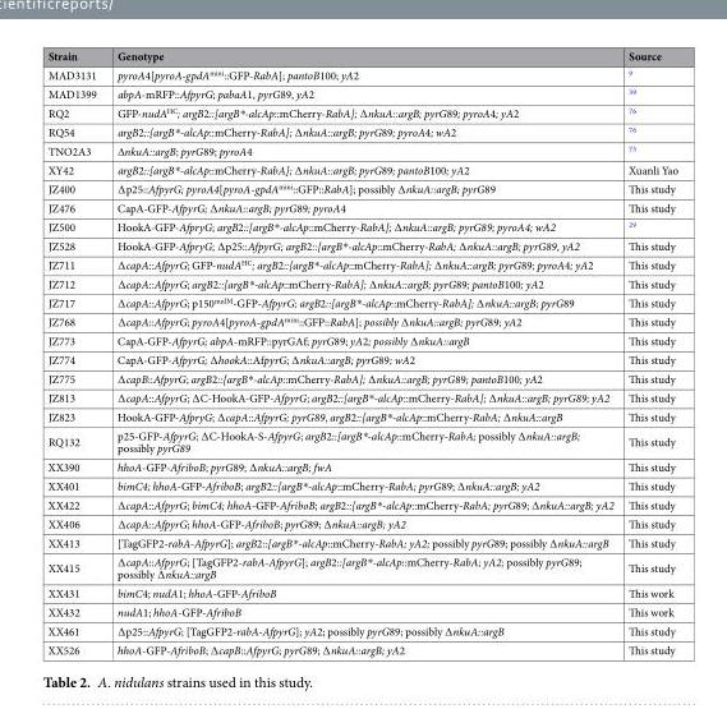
<table><thead><tr><td>Strain</td><td>Genotype</td><td>Source</td></tr></thead><tbody><tr><td>MAD3131</td><td>pyroA4[pyroA-gpdA<sup>mini</sup>::GFP-RabA]; pantoB100; yA2</td><td><sup>9</sup></td></tr><tr><td>MAD1399</td><td>abpA-mRFP::AfpyrG; pabaA1, pyrG89, yA2</td><td><sup>39</sup></td></tr><tr><td>RQ2</td><td>GFP-nudA<sup>HC</sup>; argB2::[argB*-alcAp::mCherry-RabA]; ∆nkuA::argB; pyrG89; pyroA4; yA2</td><td><sup>76</sup></td></tr><tr><td>RQ54</td><td>argB2::[argB*-alcAp::mCherry-RabA]; ∆nkuA::argB; pyrG89; pyroA4; wA2</td><td><sup>76</sup></td></tr><tr><td>TNO2A3</td><td>∆nkuA::argB; pyrG89; pyroA4</td><td><sup>75</sup></td></tr><tr><td>XY42</td><td>argB2::[argB*-alcAp::mCherry-RabA]; ∆nkuA::argB; pyrG89; pantoB100; yA2</td><td>Xuanli Yao</td></tr><tr><td>JZ400</td><td>∆p25::AfpyrG; pyroA4[pyroA-gpdA<sup>mini</sup>::GFP::RabA]; possibly ∆nkuA::argB; pyrG89</td><td>This study</td></tr><tr><td>JZ476</td><td>CapA-GFP-AfpyrG; ∆nkuA::argB; pyrG89; pyroA4</td><td>This study</td></tr><tr><td>JZ500</td><td>HookA-GFP-AfpryG; argB2::[argB*-alcAp::mCherry-RabA]; ∆nkuA::argB; pyrG89; pyroA4; wA2</td><td><sup>29</sup></td></tr><tr><td>JZ528</td><td>HookA-GFP-AfpryG; ∆p25::AfpyrG; argB2::[argB*-alcAp::mCherry-RabA; ∆nkuA::argB; pyrG89, yA2</td><td>This study</td></tr><tr><td>JZ711</td><td>∆capA::AfpyrG; GFP-nudA<sup>HC</sup>; argB2::[argB*-alcAp::mCherry-RabA]; ∆nkuA::argB; pyrG89; pyroA4; yA2</td><td>This study</td></tr><tr><td>JZ712</td><td>∆capA::AfpyrG; argB2::[argB*-alcAp::mCherry-RabA]; ∆nkuA::argB; pyrG89; pantoB100; yA2</td><td>This study</td></tr><tr><td>JZ717</td><td>∆capA::AfpyrG; p150<sup>nudM</sup>-GFP-AfpyrG; argB2::[argB*-alcAp::mCherry-RabA]; ∆nkuA::argB; pyrG89</td><td>This study</td></tr><tr><td>JZ768</td><td>∆capA::AfpyrG; pyroA4[pyroA-gpdA<sup>mini</sup>::GFP::RabA]; possibly ∆nkuA::argB; pyrG89; yA2</td><td>This study</td></tr><tr><td>JZ773</td><td>CapA-GFP-AfpyrG; abpA-mRFP::pyrGAf; pyrG89; yA2; possibly ∆nkuA::argB</td><td>This study</td></tr><tr><td>JZ774</td><td>CapA-GFP-AfpyrG; ∆hookA::AfpyrG; ∆nkuA::argB; pyrG89; wA2</td><td>This study</td></tr><tr><td>JZ775</td><td>∆capB::AfpyrG; argB2::[argB*-alcAp::mCherry-RabA]; ∆nkuA::argB; pyrG89; pantoB100; yA2</td><td>This study</td></tr><tr><td>JZ813</td><td>∆capA::AfpyrG; ∆C-HookA-GFP-AfpyrG; argB2::[argB*-alcAp::mCherry-RabA]; ∆nkuA::argB; pyrG89; yA2</td><td>This study</td></tr><tr><td>JZ823</td><td>HookA-GFP-AfpryG; ∆capA::AfpyrG; pyrG89, argB2::[argB*-alcAp::mCherry-RabA; ∆nkuA::argB</td><td>This study</td></tr><tr><td>RQ132</td><td>p25-GFP-AfpyrG; ∆C-HookA-S-AfpyrG; argB2::[argB*-alcAp::mCherry-RabA; possibly ∆nkuA::argB; possibly pyrG89</td><td>This study</td></tr><tr><td>XX390</td><td>hhoA-GFP-AfriboB; pyrG89; ∆nkuA::argB; fwA</td><td>This study</td></tr><tr><td>XX401</td><td>bimC4; hhoA-GFP-AfriboB; argB2::[argB*-alcAp::mCherry-RabA; pyrG89; ∆nkuA::argB; yA2</td><td>This study</td></tr><tr><td>XX422</td><td>∆capA::AfpyrG; bimC4; hhoA-GFP-AfriboB; argB2::[argB*-alcAp::mCherry-RabA; pyrG89; ∆nkuA::argB; yA2</td><td>This study</td></tr><tr><td>XX406</td><td>∆capA::AfpyrG; hhoA-GFP-AfriboB; pyrG89; ∆nkuA::argB; yA2</td><td>This study</td></tr><tr><td>XX413</td><td>[TagGFP2-rabA-AfpyrG]; argB2::[argB*-alcAp::mCherry-RabA; yA2; possibly pyrG89; possibly ∆nkuA::argB</td><td>This study</td></tr><tr><td>XX415</td><td>∆capA::AfpyrG; [TagGFP2-rabA-AfpyrG]; argB2::[argB*-alcAp::mCherry-RabA; yA2; possibly pyrG89; possibly ∆nkuA::argB</td><td>This study</td></tr><tr><td>XX431</td><td>bimC4; nudA1; hhoA-GFP-AfriboB</td><td>This work</td></tr><tr><td>XX432</td><td>nudA1; hhoA-GFP-AfriboB</td><td>This work</td></tr><tr><td>XX461</td><td>∆p25::AfpyrG; [TagGFP2-rabA-AfpyrG]; yA2; possibly pyrG89; possibly ∆nkuA::argB</td><td>This study</td></tr><tr><td>XX526</td><td>hhoA-GFP-AfriboB; ∆capB::AfpyrG; pyrG89; ∆nkuA::argB; yA2</td><td>This study</td></tr></tbody></table>